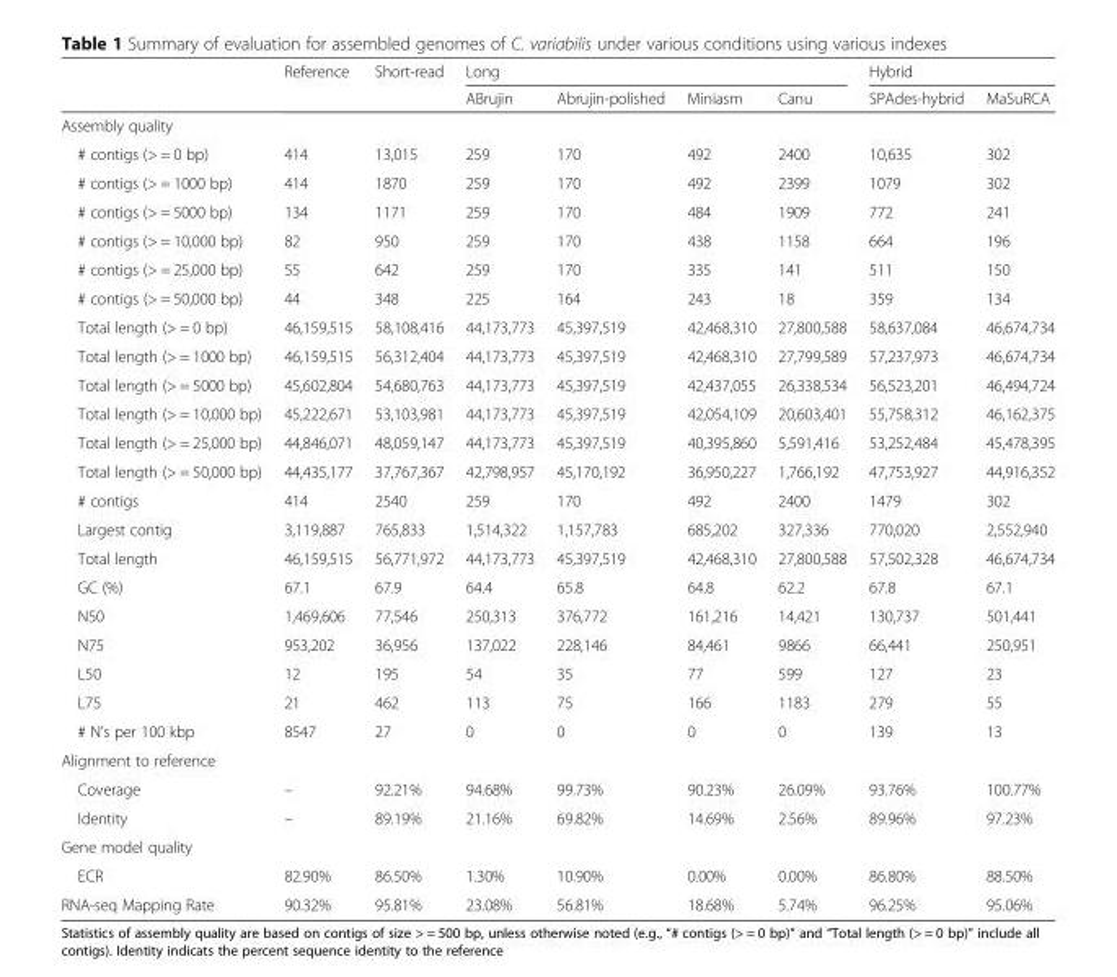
<table><thead><tr><td rowspan="2"></td><td rowspan="2">Reference</td><td rowspan="2">Short-read</td><td colspan="4">Long</td><td colspan="2">Hybrid</td></tr><tr><td>ABrujin</td><td>Abrujin-polished</td><td>Miniasm</td><td>Canu</td><td>SPAdes-hybrid</td><td>MaSuRCA</td></tr></thead><tbody><tr><td colspan="9">Assembly quality</td></tr><tr><td># contigs (&gt; = 0 bp)</td><td>414</td><td>13,015</td><td>259</td><td>170</td><td>492</td><td>2400</td><td>10,635</td><td>302</td></tr><tr><td># contigs (&gt; = 1000 bp)</td><td>414</td><td>1870</td><td>259</td><td>170</td><td>492</td><td>2399</td><td>1079</td><td>302</td></tr><tr><td># contigs (&gt; = 5000 bp)</td><td>134</td><td>1171</td><td>259</td><td>170</td><td>484</td><td>1909</td><td>772</td><td>241</td></tr><tr><td># contigs (&gt; = 10,000 bp)</td><td>82</td><td>950</td><td>259</td><td>170</td><td>438</td><td>1158</td><td>664</td><td>196</td></tr><tr><td># contigs (&gt; = 25,000 bp)</td><td>55</td><td>642</td><td>259</td><td>170</td><td>335</td><td>141</td><td>511</td><td>150</td></tr><tr><td># contigs (&gt; = 50,000 bp)</td><td>44</td><td>348</td><td>225</td><td>164</td><td>243</td><td>18</td><td>359</td><td>134</td></tr><tr><td>Total length (&gt; = 0 bp)</td><td>46,159,515</td><td>58,108,416</td><td>44,173,773</td><td>45,397,519</td><td>42,468,310</td><td>27,800,588</td><td>58,637,084</td><td>46,674,734</td></tr><tr><td>Total length (&gt; = 1000 bp)</td><td>46,159,515</td><td>56,312,404</td><td>44,173,773</td><td>45,397,519</td><td>42,468,310</td><td>27,799,589</td><td>57,237,973</td><td>46,674,734</td></tr><tr><td>Total length (&gt; = 5000 bp)</td><td>45,602,804</td><td>54,680,763</td><td>44,173,773</td><td>45,397,519</td><td>42,437,055</td><td>26,338,534</td><td>56,523,201</td><td>46,494,724</td></tr><tr><td>Total length (&gt; = 10,000 bp)</td><td>45,222,671</td><td>53,103,981</td><td>44,173,773</td><td>45,397,519</td><td>42,054,109</td><td>20,603,401</td><td>55,758,312</td><td>46,162,375</td></tr><tr><td>Total length (&gt; = 25,000 bp)</td><td>44,846,071</td><td>48,059,147</td><td>44,173,773</td><td>45,397,519</td><td>40,395,860</td><td>5,591,416</td><td>53,252,484</td><td>45,478,395</td></tr><tr><td>Total length (&gt; = 50,000 bp)</td><td>44,435,177</td><td>37,767,367</td><td>42,798,957</td><td>45,170,192</td><td>36,950,227</td><td>1,766,192</td><td>47,753,927</td><td>44,916,352</td></tr><tr><td># contigs</td><td>414</td><td>2540</td><td>259</td><td>170</td><td>492</td><td>2400</td><td>1479</td><td>302</td></tr><tr><td>Largest contig</td><td>3,119,887</td><td>765,833</td><td>1,514,322</td><td>1,157,783</td><td>685,202</td><td>327,336</td><td>770,020</td><td>2,552,940</td></tr><tr><td>Total length</td><td>46,159,515</td><td>56,771,972</td><td>44,173,773</td><td>45,397,519</td><td>42,468,310</td><td>27,800,588</td><td>57,502,328</td><td>46,674,734</td></tr><tr><td>GC (%)</td><td>67.1</td><td>67.9</td><td>64.4</td><td>65.8</td><td>64.8</td><td>62.2</td><td>67.8</td><td>67.1</td></tr><tr><td>N50</td><td>1,469,606</td><td>77,546</td><td>250,313</td><td>376,772</td><td>161,216</td><td>14,421</td><td>130,737</td><td>501,441</td></tr><tr><td>N75</td><td>953,202</td><td>36,956</td><td>137,022</td><td>228,146</td><td>84,461</td><td>9866</td><td>66,441</td><td>250,951</td></tr><tr><td>L50</td><td>12</td><td>195</td><td>54</td><td>35</td><td>77</td><td>599</td><td>127</td><td>23</td></tr><tr><td>L75</td><td>21</td><td>462</td><td>113</td><td>75</td><td>166</td><td>1183</td><td>279</td><td>55</td></tr><tr><td># N’s per 100 kbp</td><td>8547</td><td>27</td><td>0</td><td>0</td><td>0</td><td>0</td><td>139</td><td>13</td></tr><tr><td colspan="9">Alignment to reference</td></tr><tr><td>Coverage</td><td>–</td><td>92.21%</td><td>94.68%</td><td>99.73%</td><td>90.23%</td><td>26.09%</td><td>93.76%</td><td>100.77%</td></tr><tr><td>Identity</td><td>–</td><td>89.19%</td><td>21.16%</td><td>69.82%</td><td>14.69%</td><td>2.56%</td><td>89.96%</td><td>97.23%</td></tr><tr><td colspan="9">Gene model quality</td></tr><tr><td>ECR</td><td>82.90%</td><td>86.50%</td><td>1.30%</td><td>10.90%</td><td>0.00%</td><td>0.00%</td><td>86.80%</td><td>88.50%</td></tr><tr><td>RNA-seq Mapping Rate</td><td>90.32%</td><td>95.81%</td><td>23.08%</td><td>56.81%</td><td>18.68%</td><td>5.74%</td><td>96.25%</td><td>95.06%</td></tr></tbody></table>